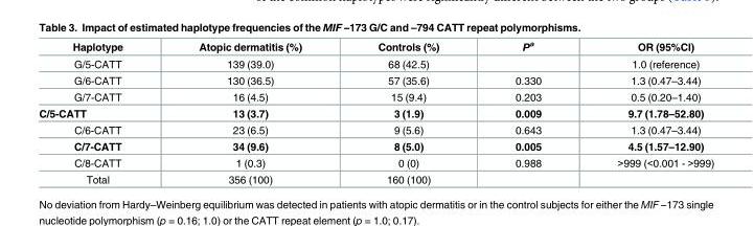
<table><thead><tr><td>Haplotype</td><td>Atopic dermatitis (%)</td><td>Controls (%)</td><td>P<sup>a</sup></td><td>OR (95%CI)</td></tr></thead><tbody><tr><td>G/5-CATT</td><td>139 (39.0)</td><td>68 (42.5)</td><td></td><td>1.0 (reference)</td></tr><tr><td>G/6-CATT</td><td>130 (36.5)</td><td>57 (35.6)</td><td>0.330</td><td>1.3 (0.47–3.44)</td></tr><tr><td>G/7-CATT</td><td>16 (4.5)</td><td>15 (9.4)</td><td>0.203</td><td>0.5 (0.20–1.40)</td></tr><tr><td>C/5-CATT</td><td>13 (3.7)</td><td>3 (1.9)</td><td>0.009</td><td>9.7 (1.78–52.80)</td></tr><tr><td>C/6-CATT</td><td>23 (6.5)</td><td>9 (5.6)</td><td>0.643</td><td>1.3 (0.47–3.44)</td></tr><tr><td>C/7-CATT</td><td>34 (9.6)</td><td>8 (5.0)</td><td>0.005</td><td>4.5 (1.57–12.90)</td></tr><tr><td>C/8-CATT</td><td>1 (0.3)</td><td>0 (0)</td><td>0.988</td><td>&gt;999 (&lt;0.001 - &gt;999)</td></tr><tr><td>Total</td><td>356 (100)</td><td>160 (100)</td><td></td><td></td></tr></tbody></table>